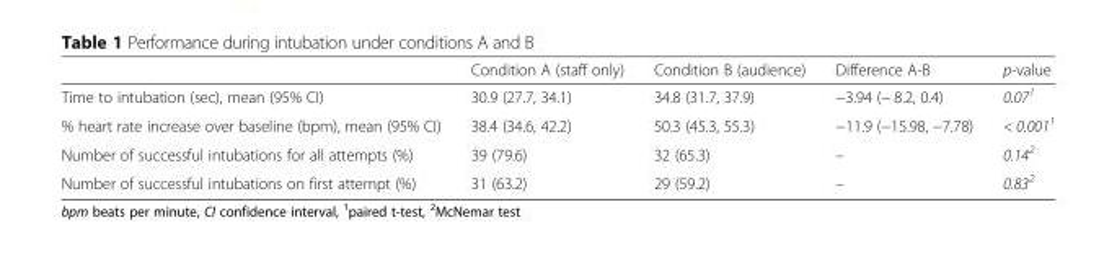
<table><thead><tr><td></td><td>Condition A (staff only)</td><td>Condition B (audience)</td><td>Difference A-B</td><td>p-value</td></tr></thead><tbody><tr><td>Time to intubation (sec), mean (95% CI)</td><td>30.9 (27.7, 34.1)</td><td>34.8 (31.7, 37.9)</td><td>−3.94 (− 8.2, 0.4)</td><td>0.07<sup>1</sup></td></tr><tr><td>% heart rate increase over baseline (bpm), mean (95% CI)</td><td>38.4 (34.6, 42.2)</td><td>50.3 (45.3, 55.3)</td><td>−11.9 (−15.98, −7.78)</td><td>&lt; 0.001<sup>1</sup></td></tr><tr><td>Number of successful intubations for all attempts (%)</td><td>39 (79.6)</td><td>32 (65.3)</td><td>–</td><td>0.14<sup>2</sup></td></tr><tr><td>Number of successful intubations on first attempt (%)</td><td>31 (63.2)</td><td>29 (59.2)</td><td>–</td><td>0.83<sup>2</sup></td></tr></tbody></table>